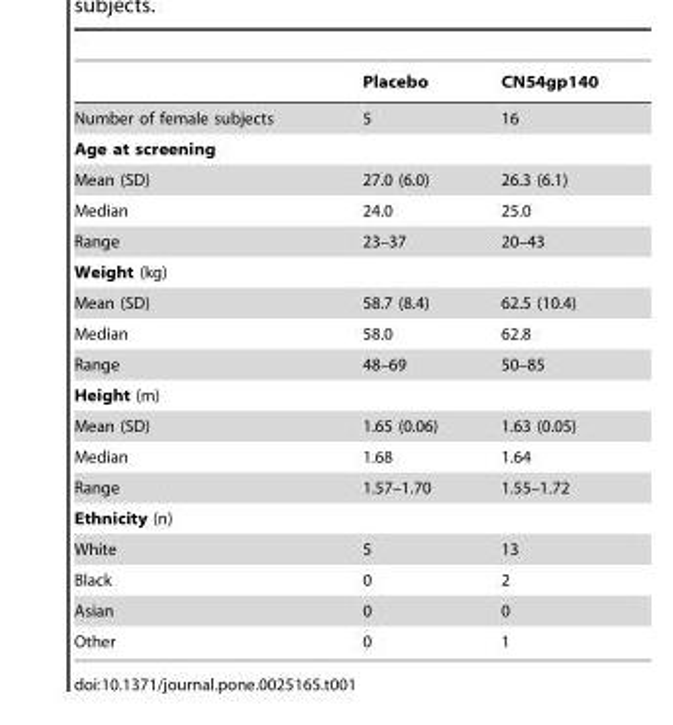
<table><thead><tr><td></td><td>Placebo</td><td>CN54gp140</td></tr></thead><tbody><tr><td>Number of female subjects</td><td>5</td><td>16</td></tr><tr><td colspan="3">Age at screening</td></tr><tr><td>Mean (SD)</td><td>27.0 (6.0)</td><td>26.3 (6.1)</td></tr><tr><td>Median</td><td>24.0</td><td>25.0</td></tr><tr><td>Range</td><td>23–37</td><td>20–43</td></tr><tr><td colspan="3">Weight (kg)</td></tr><tr><td>Mean (SD)</td><td>58.7 (8.4)</td><td>62.5 (10.4)</td></tr><tr><td>Median</td><td>58.0</td><td>62.8</td></tr><tr><td>Range</td><td>48–69</td><td>50–85</td></tr><tr><td colspan="3">Height (m)</td></tr><tr><td>Mean (SD)</td><td>1.65 (0.06)</td><td>1.63 (0.05)</td></tr><tr><td>Median</td><td>1.68</td><td>1.64</td></tr><tr><td>Range</td><td>1.57–1.70</td><td>1.55–1.72</td></tr><tr><td colspan="3">Ethnicity (n)</td></tr><tr><td>White</td><td>5</td><td>13</td></tr><tr><td>Black</td><td>0</td><td>2</td></tr><tr><td>Asian</td><td>0</td><td>0</td></tr><tr><td>Other</td><td>0</td><td>1</td></tr></tbody></table>